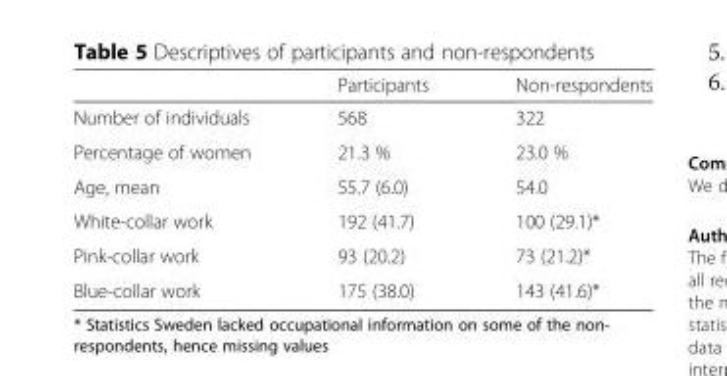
<table><thead><tr><td></td><td>Participants</td><td>Non-respondents</td></tr></thead><tbody><tr><td>Number of individuals</td><td>568</td><td>322</td></tr><tr><td>Percentage of women</td><td>21.3 %</td><td>23.0 %</td></tr><tr><td>Age, mean</td><td>55.7 (6.0)</td><td>54.0</td></tr><tr><td>White-collar work</td><td>192 (41.7)</td><td>100 (29.1)*</td></tr><tr><td>Pink-collar work</td><td>93 (20.2)</td><td>73 (21.2)*</td></tr><tr><td>Blue-collar work</td><td>175 (38.0)</td><td>143 (41.6)*</td></tr></tbody></table>